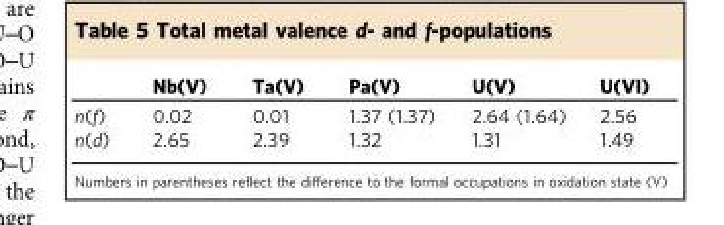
<table><thead><tr><td></td><td>Nb(V)</td><td>Ta(V)</td><td>Pa(V)</td><td>U(V)</td><td>U(VI)</td></tr></thead><tbody><tr><td>n(f)</td><td>0.02</td><td>0.01</td><td>1.37 (1.37)</td><td>2.64 (1.64)</td><td>2.56</td></tr><tr><td>n(d)</td><td>2.65</td><td>2.39</td><td>1.32</td><td>1.31</td><td>1.49</td></tr></tbody></table>